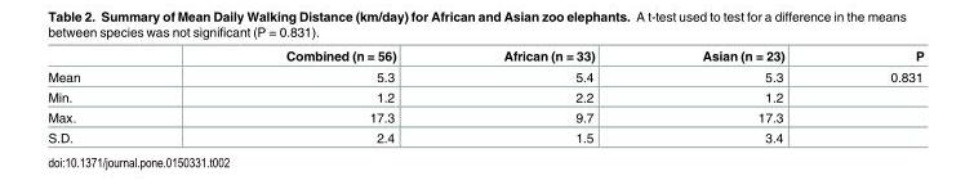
<table><thead><tr><td></td><td>Combined (n = 56)</td><td>African (n = 33)</td><td>Asian (n = 23)</td><td>P</td></tr></thead><tbody><tr><td>Mean</td><td>5.3</td><td>5.4</td><td>5.3</td><td>0.831</td></tr><tr><td>Min.</td><td>1.2</td><td>2.2</td><td>1.2</td><td></td></tr><tr><td>Max.</td><td>17.3</td><td>9.7</td><td>17.3</td><td></td></tr><tr><td>S.D.</td><td>2.4</td><td>1.5</td><td>3.4</td><td></td></tr></tbody></table>